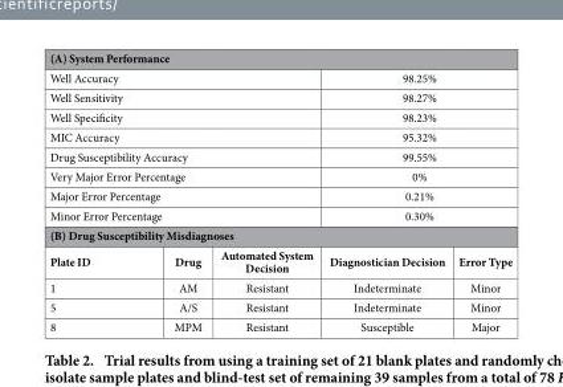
<table><thead><tr><td colspan="5">(A) System Performance</td></tr></thead><tbody><tr><td colspan="3">Well Accuracy</td><td colspan="2">98.25%</td></tr><tr><td colspan="3">Well Sensitivity</td><td colspan="2">98.27%</td></tr><tr><td colspan="3">Well Specificity</td><td colspan="2">98.23%</td></tr><tr><td colspan="3">MIC Accuracy</td><td colspan="2">95.32%</td></tr><tr><td colspan="3">Drug Susceptibility Accuracy</td><td colspan="2">99.55%</td></tr><tr><td colspan="3">Very Major Error Percentage</td><td colspan="2">0%</td></tr><tr><td colspan="3">Major Error Percentage</td><td colspan="2">0.21%</td></tr><tr><td colspan="3">Minor Error Percentage</td><td colspan="2">0.30%</td></tr><tr><td colspan="5">(B) Drug Susceptibility Misdiagnoses</td></tr><tr><td>Plate ID</td><td>Drug</td><td>Automated System Decision</td><td>Diagnostician Decision</td><td>Error Type</td></tr><tr><td>1</td><td>AM</td><td>Resistant</td><td>Indeterminate</td><td>Minor</td></tr><tr><td>5</td><td>A/S</td><td>Resistant</td><td>Indeterminate</td><td>Minor</td></tr><tr><td>8</td><td>MPM</td><td>Resistant</td><td>Susceptible</td><td>Major</td></tr></tbody></table>